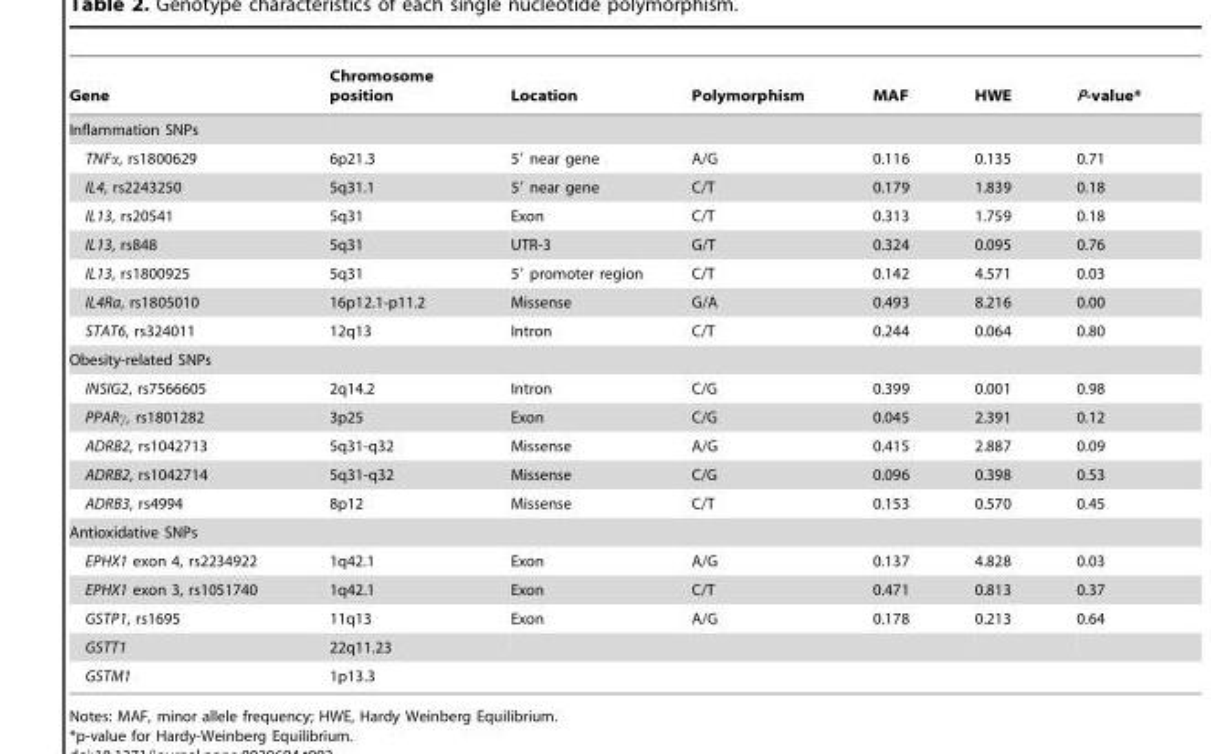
<table><thead><tr><td>Gene</td><td>Chromosome position</td><td>Location</td><td>Polymorphism</td><td>MAF</td><td>HWE</td><td>P-value*</td></tr></thead><tbody><tr><td colspan="7">Inflammation SNPs</td></tr><tr><td>TNFα, rs1800629</td><td>6p21.3</td><td>5′ near gene</td><td>A/G</td><td>0.116</td><td>0.135</td><td>0.71</td></tr><tr><td>IL4, rs2243250</td><td>5q31.1</td><td>5′ near gene</td><td>C/T</td><td>0.179</td><td>1.839</td><td>0.18</td></tr><tr><td>IL13, rs20541</td><td>5q31</td><td>Exon</td><td>C/T</td><td>0.313</td><td>1.759</td><td>0.18</td></tr><tr><td>IL13, rs848</td><td>5q31</td><td>UTR-3</td><td>G/T</td><td>0.324</td><td>0.095</td><td>0.76</td></tr><tr><td>IL13, rs1800925</td><td>5q31</td><td>5′ promoter region</td><td>C/T</td><td>0.142</td><td>4.571</td><td>0.03</td></tr><tr><td>IL4Ra, rs1805010</td><td>16p12.1-p11.2</td><td>Missense</td><td>G/A</td><td>0.493</td><td>8.216</td><td>0.00</td></tr><tr><td>STAT6, rs324011</td><td>12q13</td><td>Intron</td><td>C/T</td><td>0.244</td><td>0.064</td><td>0.80</td></tr><tr><td colspan="7">Obesity-related SNPs</td></tr><tr><td>INSIG2, rs7566605</td><td>2q14.2</td><td>Intron</td><td>C/G</td><td>0.399</td><td>0.001</td><td>0.98</td></tr><tr><td>PPARγ, rs1801282</td><td>3p25</td><td>Exon</td><td>C/G</td><td>0.045</td><td>2.391</td><td>0.12</td></tr><tr><td>ADRB2, rs1042713</td><td>5q31-q32</td><td>Missense</td><td>A/G</td><td>0.415</td><td>2.887</td><td>0.09</td></tr><tr><td>ADRB2, rs1042714</td><td>5q31-q32</td><td>Missense</td><td>C/G</td><td>0.096</td><td>0.398</td><td>0.53</td></tr><tr><td>ADRB3, rs4994</td><td>8p12</td><td>Missense</td><td>C/T</td><td>0.153</td><td>0.570</td><td>0.45</td></tr><tr><td colspan="7">Antioxidative SNPs</td></tr><tr><td>EPHX1 exon 4, rs2234922</td><td>1q42.1</td><td>Exon</td><td>A/G</td><td>0.137</td><td>4.828</td><td>0.03</td></tr><tr><td>EPHX1 exon 3, rs1051740</td><td>1q42.1</td><td>Exon</td><td>C/T</td><td>0.471</td><td>0.813</td><td>0.37</td></tr><tr><td>GSTP1, rs1695</td><td>11q13</td><td>Exon</td><td>A/G</td><td>0.178</td><td>0.213</td><td>0.64</td></tr><tr><td>GSTT1</td><td>22q11.23</td><td></td><td></td><td></td><td></td><td></td></tr><tr><td>GSTM1</td><td>1p13.3</td><td></td><td></td><td></td><td></td><td></td></tr></tbody></table>